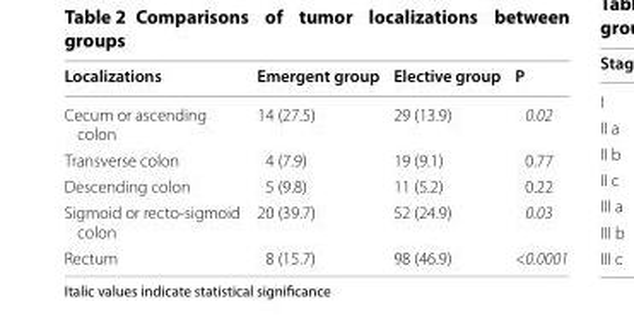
<table><thead><tr><td>Localizations</td><td>Emergent group</td><td>Elective group</td><td>P</td></tr></thead><tbody><tr><td>Cecum or ascending colon</td><td>14 (27.5)</td><td>29 (13.9)</td><td>0.02</td></tr><tr><td>Transverse colon</td><td>4 (7.9)</td><td>19 (9.1)</td><td>0.77</td></tr><tr><td>Descending colon</td><td>5 (9.8)</td><td>11 (5.2)</td><td>0.22</td></tr><tr><td>Sigmoid or recto-sigmoid colon</td><td>20 (39.7)</td><td>52 (24.9)</td><td>0.03</td></tr><tr><td>Rectum</td><td>8 (15.7)</td><td>98 (46.9)</td><td>&lt;0.0001</td></tr></tbody></table>